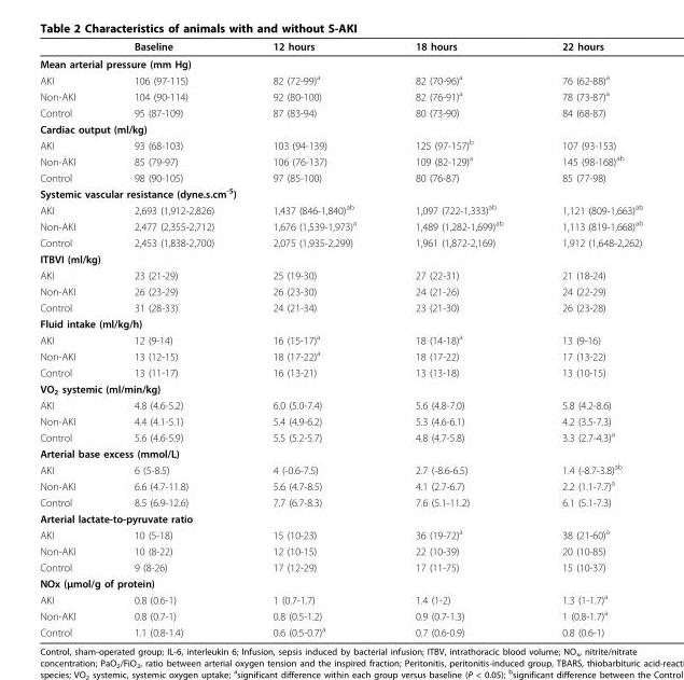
<table><thead><tr><td></td><td>Baseline</td><td>12 hours</td><td>18 hours</td><td>22 hours</td></tr></thead><tbody><tr><td colspan="5">Mean arterial pressure (mm Hg)</td></tr><tr><td>AKI</td><td>106 (97-115)</td><td>82 (72-99)<sup>a</sup></td><td>82 (70-96)<sup>a</sup></td><td>76 (62-88)<sup>a</sup></td></tr><tr><td>Non-AKI</td><td>104 (90-114)</td><td>92 (80-100)</td><td>82 (76-91)<sup>a</sup></td><td>78 (73-87)<sup>a</sup></td></tr><tr><td>Control</td><td>95 (87-109)</td><td>87 (83-94)</td><td>80 (73-90)</td><td>84 (68-87)</td></tr><tr><td colspan="5">Cardiac output (ml/kg)</td></tr><tr><td>AKI</td><td>93 (68-103)</td><td>103 (94-139)</td><td>125 (97-157)<sup>b</sup></td><td>107 (93-153)</td></tr><tr><td>Non-AKI</td><td>85 (79-97)</td><td>106 (76-137)</td><td>109 (82-129)<sup>a</sup></td><td>145 (98-168)<sup>ab</sup></td></tr><tr><td>Control</td><td>98 (90-105)</td><td>97 (85-100)</td><td>80 (76-87)</td><td>85 (77-98)</td></tr><tr><td colspan="5">Systemic vascular resistance (dyne.s.cm<sup>-5</sup>)</td></tr><tr><td>AKI</td><td>2,693 (1,912-2,826)</td><td>1,437 (846-1,840)<sup>ab</sup></td><td>1,097 (722-1,333)<sup>ab</sup></td><td>1,121 (809-1,663)<sup>ab</sup></td></tr><tr><td>Non-AKI</td><td>2,477 (2,355-2,712)</td><td>1,676 (1,539-1,973)<sup>a</sup></td><td>1,489 (1,282-1,699)<sup>ab</sup></td><td>1,113 (819-1,668)<sup>ab</sup></td></tr><tr><td>Control</td><td>2,453 (1,838-2,700)</td><td>2,075 (1,935-2,299)</td><td>1,961 (1,872-2,169)</td><td>1,912 (1,648-2,262)</td></tr><tr><td colspan="5">ITBVI (ml/kg)</td></tr><tr><td>AKI</td><td>23 (21-29)</td><td>25 (19-30)</td><td>27 (22-31)</td><td>21 (18-24)</td></tr><tr><td>Non-AKI</td><td>26 (23-29)</td><td>26 (23-30)</td><td>24 (21-26)</td><td>24 (22-29)</td></tr><tr><td>Control</td><td>31 (28-33)</td><td>24 (21-34)</td><td>23 (21-30)</td><td>26 (23-28)</td></tr><tr><td colspan="5">Fluid intake (ml/kg/h)</td></tr><tr><td>AKI</td><td>12 (9-14)</td><td>16 (15-17)<sup>a</sup></td><td>18 (14-18)<sup>a</sup></td><td>13 (9-16)</td></tr><tr><td>Non-AKI</td><td>13 (12-15)</td><td>18 (17-22)<sup>a</sup></td><td>18 (17-22)</td><td>17 (13-22)</td></tr><tr><td>Control</td><td>13 (11-17)</td><td>16 (13-21)</td><td>13 (13-18)</td><td>13 (10-15)</td></tr><tr><td colspan="5">VO<sub>2</sub> systemic (ml/min/kg)</td></tr><tr><td>AKI</td><td>4.8 (4.6-5.2)</td><td>6.0 (5.0-7.4)</td><td>5.6 (4.8-7.0)</td><td>5.8 (4.2-8.6)</td></tr><tr><td>Non-AKI</td><td>4.4 (4.1-5.1)</td><td>5.4 (4.9-6.2)</td><td>5.3 (4.6-6.1)</td><td>4.2 (3.5-7.3)</td></tr><tr><td>Control</td><td>5.6 (4.6-5.9)</td><td>5.5 (5.2-5.7)</td><td>4.8 (4.7-5.8)</td><td>3.3 (2.7-4.3)<sup>a</sup></td></tr><tr><td colspan="5">Arterial base excess (mmol/L)</td></tr><tr><td>AKI</td><td>6 (5-8.5)</td><td>4 (-0.6-7.5)</td><td>2.7 (-8.6-6.5)</td><td>1.4 (-8.7-3.8)<sup>ab</sup></td></tr><tr><td>Non-AKI</td><td>6.6 (4.7-11.8)</td><td>5.6 (4.7-8.5)</td><td>4.1 (2.7-6.7)</td><td>2.2 (1.1-7.7)<sup>a</sup></td></tr><tr><td>Control</td><td>8.5 (6.9-12.6)</td><td>7.7 (6.7-8.3)</td><td>7.6 (5.1-11.2)</td><td>6.1 (5.1-7.3)</td></tr><tr><td colspan="5">Arterial lactate-to-pyruvate ratio</td></tr><tr><td>AKI</td><td>10 (5-18)</td><td>15 (10-23)</td><td>36 (19-72)<sup>a</sup></td><td>38 (21-60)<sup>a</sup></td></tr><tr><td>Non-AKI</td><td>10 (8-22)</td><td>12 (10-15)</td><td>22 (10-39)</td><td>20 (10-85)</td></tr><tr><td>Control</td><td>9 (8-26)</td><td>17 (12-29)</td><td>17 (11-75)</td><td>15 (10-37)</td></tr><tr><td colspan="5">NOx (μmol/g of protein)</td></tr><tr><td>AKI</td><td>0.8 (0.6-1)</td><td>1 (0.7-1.7)</td><td>1.4 (1-2)</td><td>1.3 (1-1.7)<sup>a</sup></td></tr><tr><td>Non-AKI</td><td>0.8 (0.7-1)</td><td>0.8 (0.5-1.2)</td><td>0.9 (0.7-1.3)</td><td>1 (0.8-1.7)<sup>a</sup></td></tr><tr><td>Control</td><td>1.1 (0.8-1.4)</td><td>0.6 (0.5-0.7)<sup>a</sup></td><td>0.7 (0.6-0.9)</td><td>0.8 (0.6-1)</td></tr></tbody></table>